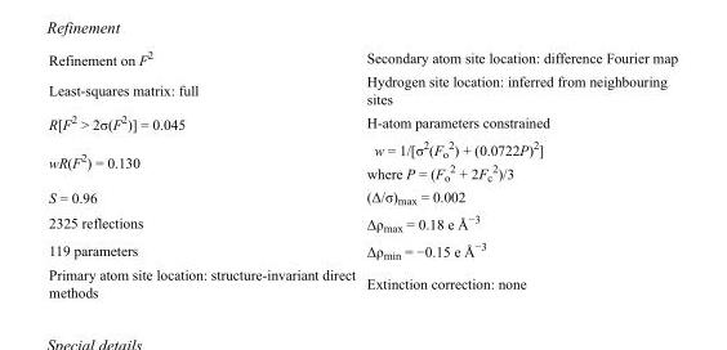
<table><tbody><tr><td>Refinement on F<sup>2</sup></td><td>Secondary atom site location: difference Fourier map</td></tr><tr><td>Least-squares matrix: full</td><td>Hydrogen site location: inferred from neighbouring sites</td></tr><tr><td>R[F<sup>2</sup> &gt; 2σ(F<sup>2</sup>)] = 0.045</td><td>H-atom parameters constrained</td></tr><tr><td>wR(F<sup>2</sup>) = 0.130</td><td>w = 1/[σ<sup>2</sup>(F<sub>o</sub> <sup>2</sup>) + (0.0722P)<sup>2</sup>] where P = (F<sub>o</sub> <sup>2</sup> + 2F<sub>c</sub> <sup>2</sup>)/3</td></tr><tr><td>S = 0.96</td><td>(Δ/σ)<sub>max</sub> = 0.002</td></tr><tr><td>2325 reflections</td><td>Δρ<sub>max</sub> = 0.18 e Å<sup>−3</sup></td></tr><tr><td>119 parameters</td><td>Δρ<sub>min</sub> = −0.15 e Å<sup>−3</sup></td></tr><tr><td>Primary atom site location: structure-invariant direct methods</td><td>Extinction correction: none</td></tr></tbody></table>